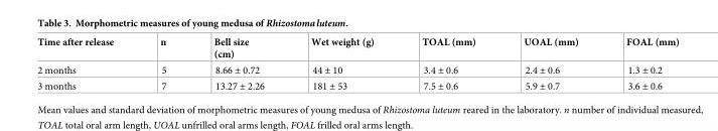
<table><thead><tr><td>Time after release</td><td>n</td><td>Bell size (cm)</td><td>Wet weight (g)</td><td>TOAL (mm)</td><td>UOAL (mm)</td><td>FOAL (mm)</td></tr></thead><tbody><tr><td>2 months</td><td>5</td><td>8.66 ± 0.72</td><td>44 ± 10</td><td>3.4 ± 0.6</td><td>2.4 ± 0.6</td><td>1.3 ± 0.2</td></tr><tr><td>3 months</td><td>7</td><td>13.27 ± 2.26</td><td>181 ± 53</td><td>7.5 ± 0.6</td><td>5.9 ± 0.7</td><td>3.6 ± 0.6</td></tr></tbody></table>